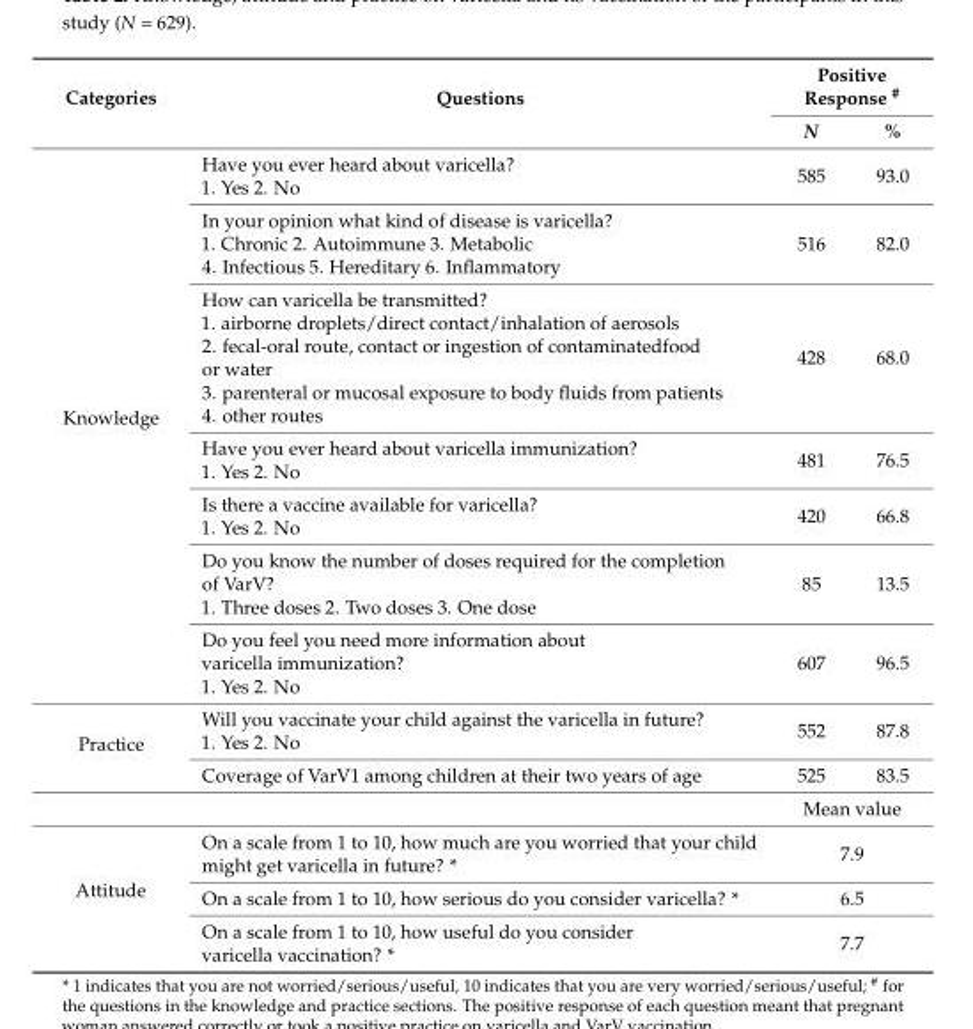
<table><thead><tr><td rowspan="2">Categories</td><td rowspan="2">Questions</td><td colspan="2">Positive Response <sup>#</sup></td></tr><tr><td>N</td><td>%</td></tr></thead><tbody><tr><td rowspan="7">Knowledge</td><td>Have you ever heard about varicella? 1. Yes 2. No</td><td>585</td><td>93.0</td></tr><tr><td>In your opinion what kind of disease is varicella? 1. Chronic 2. Autoimmune 3. Metabolic 4. Infectious 5. Hereditary 6. Inflammatory</td><td>516</td><td>82.0</td></tr><tr><td>How can varicella be transmitted? 1. airborne droplets/direct contact/inhalation of aerosols 2. fecal-oral route, contact or ingestion of contaminatedfood or water 3. parenteral or mucosal exposure to body fluids from patients 4. other routes</td><td>428</td><td>68.0</td></tr><tr><td>Have you ever heard about varicella immunization? 1. Yes 2. No</td><td>481</td><td>76.5</td></tr><tr><td>Is there a vaccine available for varicella? 1. Yes 2. No</td><td>420</td><td>66.8</td></tr><tr><td>Do you know the number of doses required for the completion of VarV? 1. Three doses 2. Two doses 3. One dose</td><td>85</td><td>13.5</td></tr><tr><td>Do you feel you need more information about varicella immunization? 1. Yes 2. No</td><td>607</td><td>96.5</td></tr><tr><td rowspan="2">Practice</td><td>Will you vaccinate your child against the varicella in future? 1. Yes 2. No</td><td>552</td><td>87.8</td></tr><tr><td>Coverage of VarV1 among children at their two years of age</td><td>525</td><td>83.5</td></tr><tr><td colspan="2"></td><td colspan="2">Mean value</td></tr><tr><td rowspan="3">Attitude</td><td>On a scale from 1 to 10, how much are you worried that your child might get varicella in future? *</td><td colspan="2">7.9</td></tr><tr><td>On a scale from 1 to 10, how serious do you consider varicella? *</td><td colspan="2">6.5</td></tr><tr><td>On a scale from 1 to 10, how useful do you consider varicella vaccination? *</td><td colspan="2">7.7</td></tr></tbody></table>